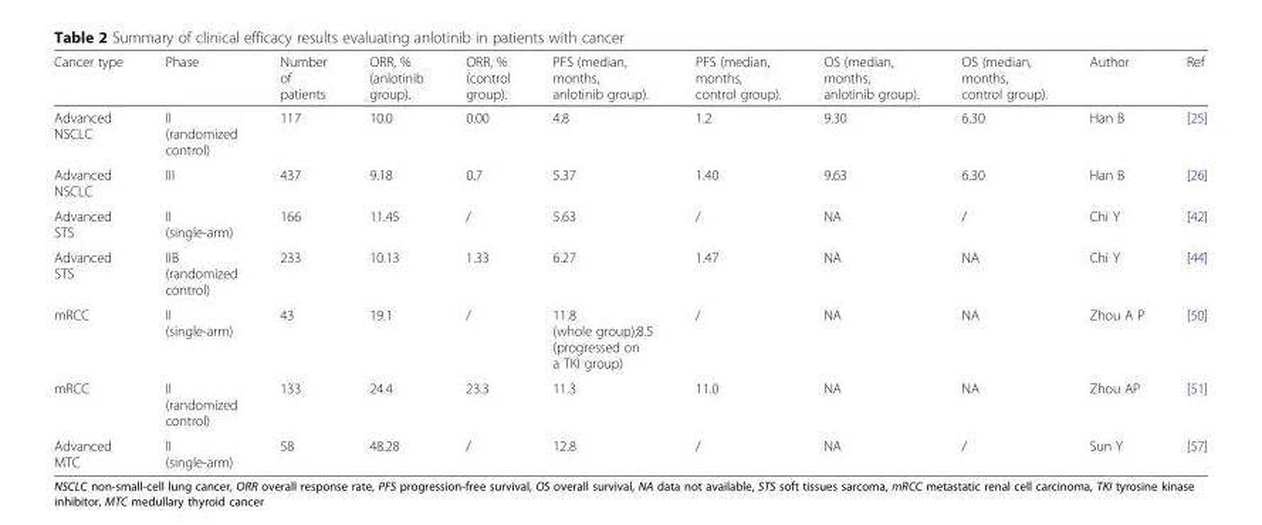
<table><thead><tr><td>Cancer type</td><td>Phase</td><td>Number of patients</td><td>ORR, % (anlotinib group).</td><td>ORR, % (control group).</td><td>PFS (median, months, anlotinib group).</td><td>PFS (median, months, control group).</td><td>OS (median, months, anlotinib group).</td><td>OS (median, months, control group).</td><td>Author</td><td>Ref</td></tr></thead><tbody><tr><td>Advanced NSCLC</td><td>II (randomized control)</td><td>117</td><td>10.0</td><td>0.00</td><td>4.8</td><td>1.2</td><td>9.30</td><td>6.30</td><td>Han B</td><td>[25]</td></tr><tr><td>Advanced NSCLC</td><td>III</td><td>437</td><td>9.18</td><td>0.7</td><td>5.37</td><td>1.40</td><td>9.63</td><td>6.30</td><td>Han B</td><td>[26]</td></tr><tr><td>Advanced STS</td><td>II (single-arm)</td><td>166</td><td>11.45</td><td>/</td><td>5.63</td><td>/</td><td>NA</td><td>/</td><td>Chi Y</td><td>[42]</td></tr><tr><td>Advanced STS</td><td>IIB (randomized control)</td><td>233</td><td>10.13</td><td>1.33</td><td>6.27</td><td>1.47</td><td>NA</td><td>NA</td><td>Chi Y</td><td>[44]</td></tr><tr><td>mRCC</td><td>II (single-arm)</td><td>43</td><td>19.1</td><td>/</td><td>11.8 (whole group);8.5 (progressed on a TKI group)</td><td>/</td><td>NA</td><td>NA</td><td>Zhou A P</td><td>[50]</td></tr><tr><td>mRCC</td><td>II (randomized control)</td><td>133</td><td>24.4</td><td>23.3</td><td>11.3</td><td>11.0</td><td>NA</td><td>NA</td><td>Zhou AP</td><td>[51]</td></tr><tr><td>Advanced MTC</td><td>II (single-arm)</td><td>58</td><td>48.28</td><td>/</td><td>12.8</td><td>/</td><td>NA</td><td>/</td><td>Sun Y</td><td>[57]</td></tr></tbody></table>